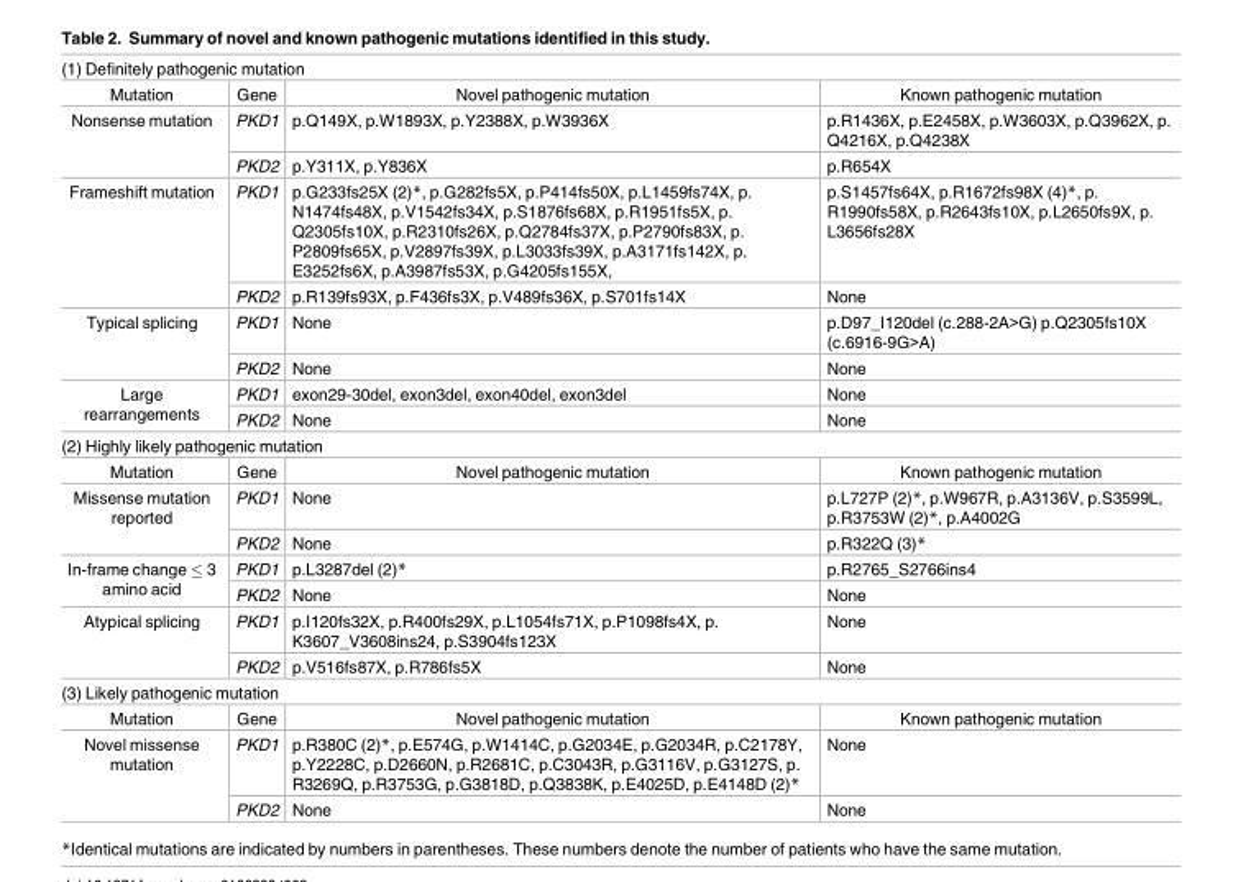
<table><tbody><tr><td colspan="4">(1) Definitely pathogenic mutation</td></tr><tr><td>Mutation</td><td>Gene</td><td>Novel pathogenic mutation</td><td>Known pathogenic mutation</td></tr><tr><td rowspan="2">Nonsense mutation</td><td>PKD1</td><td>p.Q149X, p.W1893X, p.Y2388X, p.W3936X</td><td>p.R1436X, p.E2458X, p.W3603X, p.Q3962X, p. Q4216X, p.Q4238X</td></tr><tr><td>PKD2</td><td>p.Y311X, p.Y836X</td><td>p.R654X</td></tr><tr><td rowspan="2">Frameshift mutation</td><td>PKD1</td><td>p.G233fs25X (2)*, p.G282fs5X, p.P414fs50X, p.L1459fs74X, p. N1474fs48X, p.V1542fs34X, p.S1876fs68X, p.R1951fs5X, p. Q2305fs10X, p.R2310fs26X, p.Q2784fs37X, p.P2790fs83X, p. P2809fs65X, p.V2897fs39X, p.L3033fs39X, p.A3171fs142X, p. E3252fs6X, p.A3987fs53X, p.G4205fs155X,</td><td>p.S1457fs64X, p.R1672fs98X (4)*, p. R1990fs58X, p.R2643fs10X, p.L2650fs9X, p. L3656fs28X</td></tr><tr><td>PKD2</td><td>p.R139fs93X, p.F436fs3X, p.V489fs36X, p.S701fs14X</td><td>None</td></tr><tr><td rowspan="2">Typical splicing</td><td>PKD1</td><td>None</td><td>p.D97_I120del (c.288-2A&gt;G) p.Q2305fs10X (c.6916-9G&gt;A)</td></tr><tr><td>PKD2</td><td>None</td><td>None</td></tr><tr><td rowspan="2">Large rearrangements</td><td>PKD1</td><td>exon29-30del, exon3del, exon40del, exon3del</td><td>None</td></tr><tr><td>PKD2</td><td>None</td><td>None</td></tr><tr><td colspan="4">(2) Highly likely pathogenic mutation</td></tr><tr><td>Mutation</td><td>Gene</td><td>Novel pathogenic mutation</td><td>Known pathogenic mutation</td></tr><tr><td rowspan="2">Missense mutation reported</td><td>PKD1</td><td>None</td><td>p.L727P (2)*, p.W967R, p.A3136V, p.S3599L, p.R3753W (2)*, p.A4002G</td></tr><tr><td>PKD2</td><td>None</td><td>p.R322Q (3)*</td></tr><tr><td rowspan="2">In-frame change ≤ 3 amino acid</td><td>PKD1</td><td>p.L3287del (2)*</td><td>p.R2765_S2766ins4</td></tr><tr><td>PKD2</td><td>None</td><td>None</td></tr><tr><td rowspan="2">Atypical splicing</td><td>PKD1</td><td>p.I120fs32X, p.R400fs29X, p.L1054fs71X, p.P1098fs4X, p. K3607_V3608ins24, p.S3904fs123X</td><td>None</td></tr><tr><td>PKD2</td><td>p.V516fs87X, p.R786fs5X</td><td>None</td></tr><tr><td colspan="4">(3) Likely pathogenic mutation</td></tr><tr><td>Mutation</td><td>Gene</td><td>Novel pathogenic mutation</td><td>Known pathogenic mutation</td></tr><tr><td rowspan="2">Novel missense mutation</td><td>PKD1</td><td>p.R380C (2)*, p.E574G, p.W1414C, p.G2034E, p.G2034R, p.C2178Y, p.Y2228C, p.D2660N, p.R2681C, p.C3043R, p.G3116V, p.G3127S, p. R3269Q, p.R3753G, p.G3818D, p.Q3838K, p.E4025D, p.E4148D (2)*</td><td>None</td></tr><tr><td>PKD2</td><td>None</td><td>None</td></tr></tbody></table>